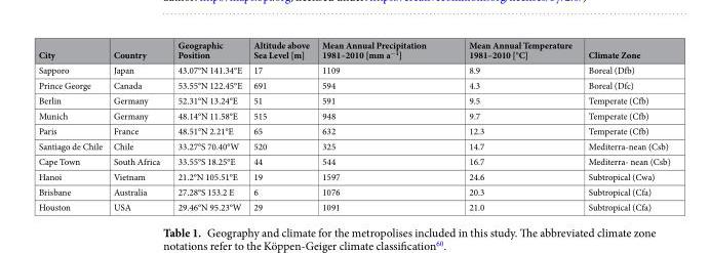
<table><thead><tr><td>City</td><td>Country</td><td>Geographic Position</td><td>Altitude above Sea Level [m]</td><td>Mean Annual Precipitation 1981–2010 [mm a<sup>−1</sup>]</td><td>Mean Annual Temperature 1981–2010 [°C]</td><td>Climate Zone</td></tr></thead><tbody><tr><td>Sapporo</td><td>Japan</td><td>43.07°N 141.34°E</td><td>17</td><td>1109</td><td>8.9</td><td>Boreal (Dfb)</td></tr><tr><td>Prince George</td><td>Canada</td><td>53.55°N 122.45°E</td><td>691</td><td>594</td><td>4.3</td><td>Boreal (Dfc)</td></tr><tr><td>Berlin</td><td>Germany</td><td>52.31°N 13.24°E</td><td>51</td><td>591</td><td>9.5</td><td>Temperate (Cfb)</td></tr><tr><td>Munich</td><td>Germany</td><td>48.14°N 11.58°E</td><td>515</td><td>948</td><td>9.7</td><td>Temperate (Cfb)</td></tr><tr><td>Paris</td><td>France</td><td>48.51°N 2.21°E</td><td>65</td><td>632</td><td>12.3</td><td>Temperate (Cfb)</td></tr><tr><td>Santiago de Chile</td><td>Chile</td><td>33.27°S 70.40°W</td><td>520</td><td>325</td><td>14.7</td><td>Mediterra-nean (Csb)</td></tr><tr><td>Cape Town</td><td>South Africa</td><td>33.55°S 18.25°E</td><td>44</td><td>544</td><td>16.7</td><td>Mediterra- nean (Csb)</td></tr><tr><td>Hanoi</td><td>Vietnam</td><td>21.2°N 105.51°E</td><td>19</td><td>1597</td><td>24.6</td><td>Subtropical (Cwa)</td></tr><tr><td>Brisbane</td><td>Australia</td><td>27.28°S 153.2 E</td><td>6</td><td>1076</td><td>20.3</td><td>Subtropical (Cfa)</td></tr><tr><td>Houston</td><td>USA</td><td>29.46°N 95.23°W</td><td>29</td><td>1091</td><td>21.0</td><td>Subtropical (Cfa)</td></tr></tbody></table>